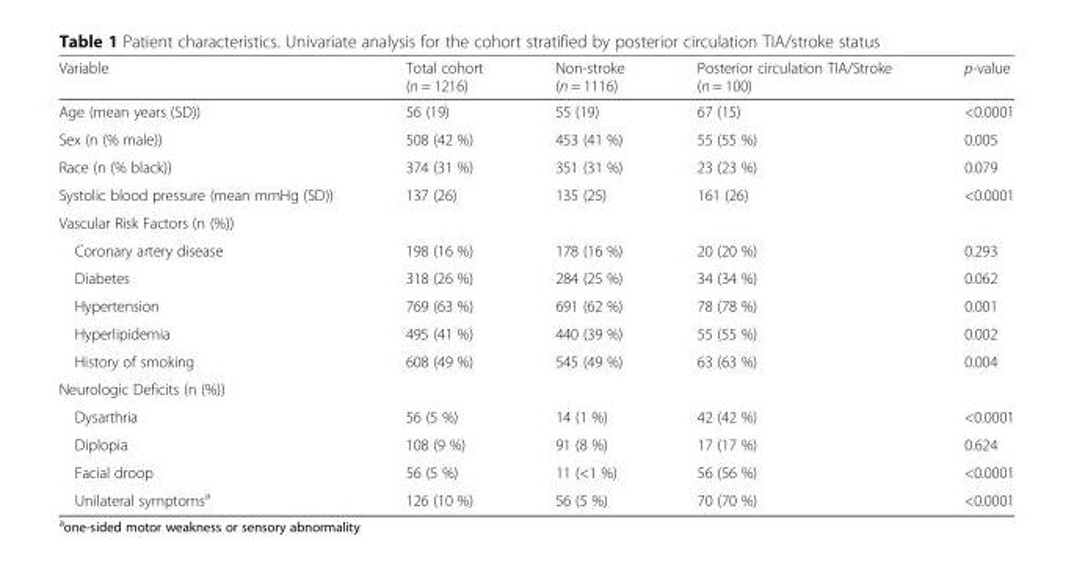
<table><thead><tr><td>Variable</td><td>Total cohort (n = 1216)</td><td>Non-stroke (n = 1116)</td><td>Posterior circulation TIA/Stroke (n = 100)</td><td>p-value</td></tr></thead><tbody><tr><td>Age (mean years (SD))</td><td>56 (19)</td><td>55 (19)</td><td>67 (15)</td><td>&lt;0.0001</td></tr><tr><td>Sex (n (% male))</td><td>508 (42 %)</td><td>453 (41 %)</td><td>55 (55 %)</td><td>0.005</td></tr><tr><td>Race (n (% black))</td><td>374 (31 %)</td><td>351 (31 %)</td><td>23 (23 %)</td><td>0.079</td></tr><tr><td>Systolic blood pressure (mean mmHg (SD))</td><td>137 (26)</td><td>135 (25)</td><td>161 (26)</td><td>&lt;0.0001</td></tr><tr><td colspan="5">Vascular Risk Factors (n (%))</td></tr><tr><td>Coronary artery disease</td><td>198 (16 %)</td><td>178 (16 %)</td><td>20 (20 %)</td><td>0.293</td></tr><tr><td>Diabetes</td><td>318 (26 %)</td><td>284 (25 %)</td><td>34 (34 %)</td><td>0.062</td></tr><tr><td>Hypertension</td><td>769 (63 %)</td><td>691 (62 %)</td><td>78 (78 %)</td><td>0.001</td></tr><tr><td>Hyperlipidemia</td><td>495 (41 %)</td><td>440 (39 %)</td><td>55 (55 %)</td><td>0.002</td></tr><tr><td>History of smoking</td><td>608 (49 %)</td><td>545 (49 %)</td><td>63 (63 %)</td><td>0.004</td></tr><tr><td colspan="5">Neurologic Deficits (n (%))</td></tr><tr><td>Dysarthria</td><td>56 (5 %)</td><td>14 (1 %)</td><td>42 (42 %)</td><td>&lt;0.0001</td></tr><tr><td>Diplopia</td><td>108 (9 %)</td><td>91 (8 %)</td><td>17 (17 %)</td><td>0.624</td></tr><tr><td>Facial droop</td><td>56 (5 %)</td><td>11 (&lt;1 %)</td><td>56 (56 %)</td><td>&lt;0.0001</td></tr><tr><td>Unilateral symptoms<sup>a</sup></td><td>126 (10 %)</td><td>56 (5 %)</td><td>70 (70 %)</td><td>&lt;0.0001</td></tr></tbody></table>